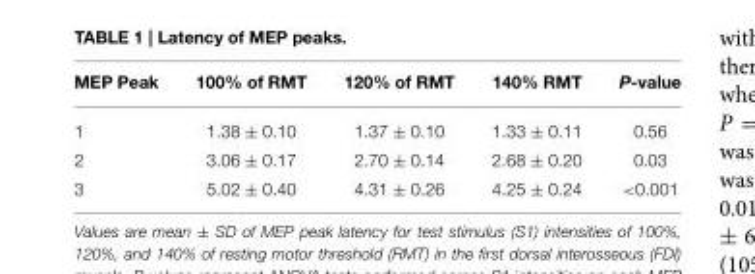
<table><thead><tr><td>MEP Peak</td><td>100% of RMT</td><td>120% of RMT</td><td>140% RMT</td><td>P-value</td></tr></thead><tbody><tr><td>1</td><td>1.38 ± 0.10</td><td>1.37 ± 0.10</td><td>1.33 ± 0.11</td><td>0.56</td></tr><tr><td>2</td><td>3.06 ± 0.17</td><td>2.70 ± 0.14</td><td>2.68 ± 0.20</td><td>0.03</td></tr><tr><td>3</td><td>5.02 ± 0.40</td><td>4.31 ± 0.26</td><td>4.25 ± 0.24</td><td>&lt;0.001</td></tr></tbody></table>